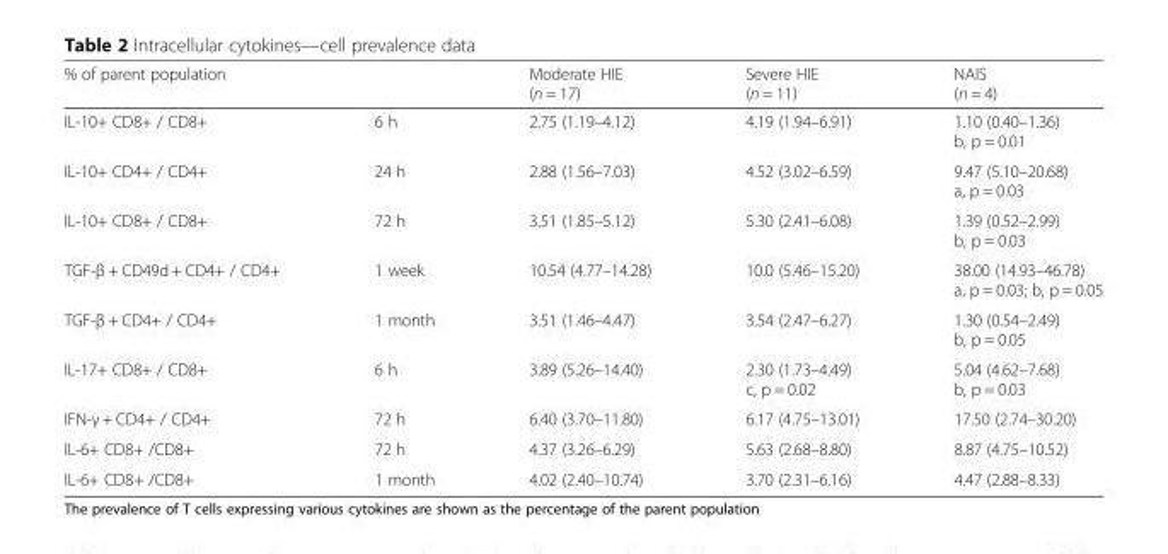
<table><thead><tr><td>% of parent population</td><td></td><td>Moderate HIE (n = 17)</td><td>Severe HIE (n = 11)</td><td>NAIS (n = 4)</td></tr></thead><tbody><tr><td>IL-10+ CD8+ / CD8+</td><td>6 h</td><td>2.75 (1.19–4.12)</td><td>4.19 (1.94–6.91)</td><td>1.10 (0.40–1.36) b, p = 0.01</td></tr><tr><td>IL-10+ CD4+ / CD4+</td><td>24 h</td><td>2.88 (1.56–7.03)</td><td>4.52 (3.02–6.59)</td><td>9.47 (5.10–20.68) a, p = 0.03</td></tr><tr><td>IL-10+ CD8+ / CD8+</td><td>72 h</td><td>3.51 (1.85–5.12)</td><td>5.30 (2.41–6.08)</td><td>1.39 (0.52–2.99) b, p = 0.03</td></tr><tr><td>TGF-β + CD49d + CD4+ / CD4+</td><td>1 week</td><td>10.54 (4.77–14.28)</td><td>10.0 (5.46–15.20)</td><td>38.00 (14.93–46.78) a, p = 0.03; b, p = 0.05</td></tr><tr><td>TGF-β + CD4+ / CD4+</td><td>1 month</td><td>3.51 (1.46–4.47)</td><td>3.54 (2.47–6.27)</td><td>1.30 (0.54–2.49) b, p = 0.05</td></tr><tr><td>IL-17+ CD8+ / CD8+</td><td>6 h</td><td>3.89 (5.26–14.40)</td><td>2.30 (1.73–4.49) c, p = 0.02</td><td>5.04 (4.62–7.68) b, p = 0.03</td></tr><tr><td>IFN-γ + CD4+ / CD4+</td><td>72 h</td><td>6.40 (3.70–11.80)</td><td>6.17 (4.75–13.01)</td><td>17.50 (2.74–30.20)</td></tr><tr><td>IL-6+ CD8+ /CD8+</td><td>72 h</td><td>4.37 (3.26–6.29)</td><td>5.63 (2.68–8.80)</td><td>8.87 (4.75–10.52)</td></tr><tr><td>IL-6+ CD8+ /CD8+</td><td>1 month</td><td>4.02 (2.40–10.74)</td><td>3.70 (2.31–6.16)</td><td>4.47 (2.88–8.33)</td></tr></tbody></table>